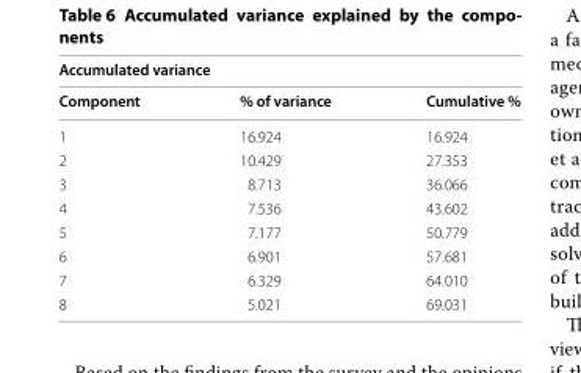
<table><thead><tr><td colspan="3">Accumulated variance</td></tr><tr><td>Component</td><td>% of variance</td><td>Cumulative %</td></tr></thead><tbody><tr><td>1</td><td>16.924</td><td>16.924</td></tr><tr><td>2</td><td>10.429</td><td>27.353</td></tr><tr><td>3</td><td>8.713</td><td>36.066</td></tr><tr><td>4</td><td>7.536</td><td>43.602</td></tr><tr><td>5</td><td>7.177</td><td>50.779</td></tr><tr><td>6</td><td>6.901</td><td>57.681</td></tr><tr><td>7</td><td>6.329</td><td>64.010</td></tr><tr><td>8</td><td>5.021</td><td>69.031</td></tr></tbody></table>